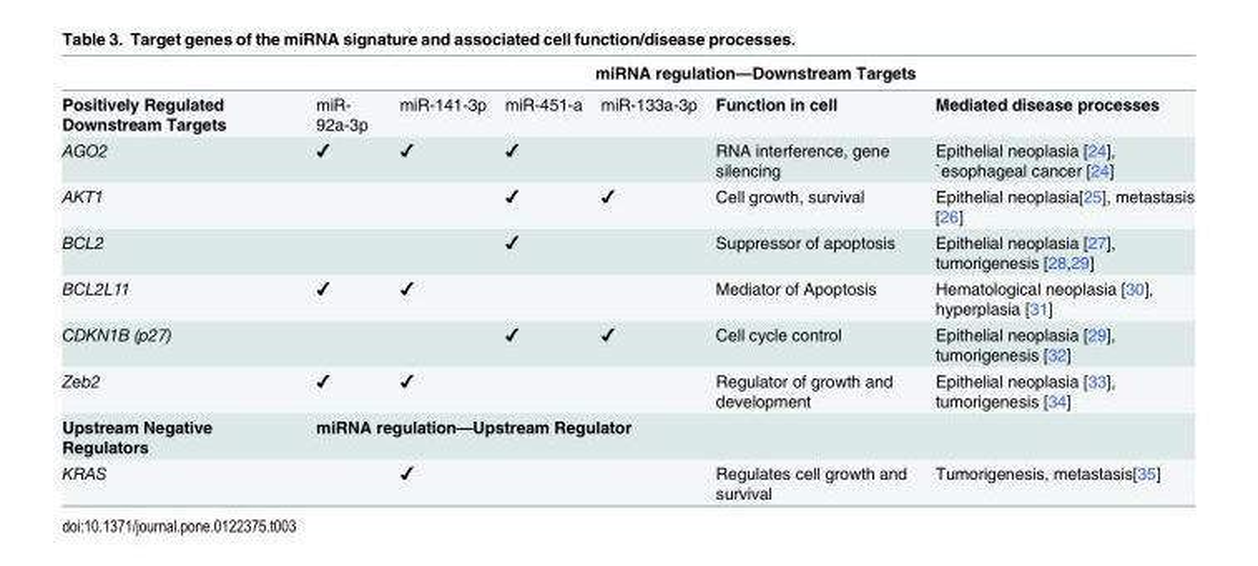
<table><thead><tr><td rowspan="2">Positively Regulated Downstream Targets</td><td colspan="6">miRNA regulation—Downstream Targets</td></tr><tr><td>miR- 92a-3p</td><td>miR-141-3p</td><td>miR-451-a</td><td>miR-133a-3p</td><td>Function in cell</td><td>Mediated disease processes</td></tr></thead><tbody><tr><td>AGO2</td><td>✔</td><td>✔</td><td>✔</td><td></td><td>RNA interference, gene silencing</td><td>Epithelial neoplasia [24], `esophageal cancer [24]</td></tr><tr><td>AKT1</td><td></td><td></td><td>✔</td><td>✔</td><td>Cell growth, survival</td><td>Epithelial neoplasia[25], metastasis [26]</td></tr><tr><td>BCL2</td><td></td><td></td><td>✔</td><td></td><td>Suppressor of apoptosis</td><td>Epithelial neoplasia [27], tumorigenesis [28,29]</td></tr><tr><td>BCL2L11</td><td>✔</td><td>✔</td><td></td><td></td><td>Mediator of Apoptosis</td><td>Hematological neoplasia [30], hyperplasia [31]</td></tr><tr><td>CDKN1B (p27)</td><td></td><td></td><td>✔</td><td>✔</td><td>Cell cycle control</td><td>Epithelial neoplasia [29], tumorigenesis [32]</td></tr><tr><td>Zeb2</td><td>✔</td><td>✔</td><td></td><td></td><td>Regulator of growth and development</td><td>Epithelial neoplasia [33], tumorigenesis [34]</td></tr><tr><td>Upstream Negative Regulators</td><td colspan="6">miRNA regulation—Upstream Regulator</td></tr><tr><td>KRAS</td><td></td><td>✔</td><td></td><td></td><td>Regulates cell growth and survival</td><td>Tumorigenesis, metastasis[35]</td></tr></tbody></table>